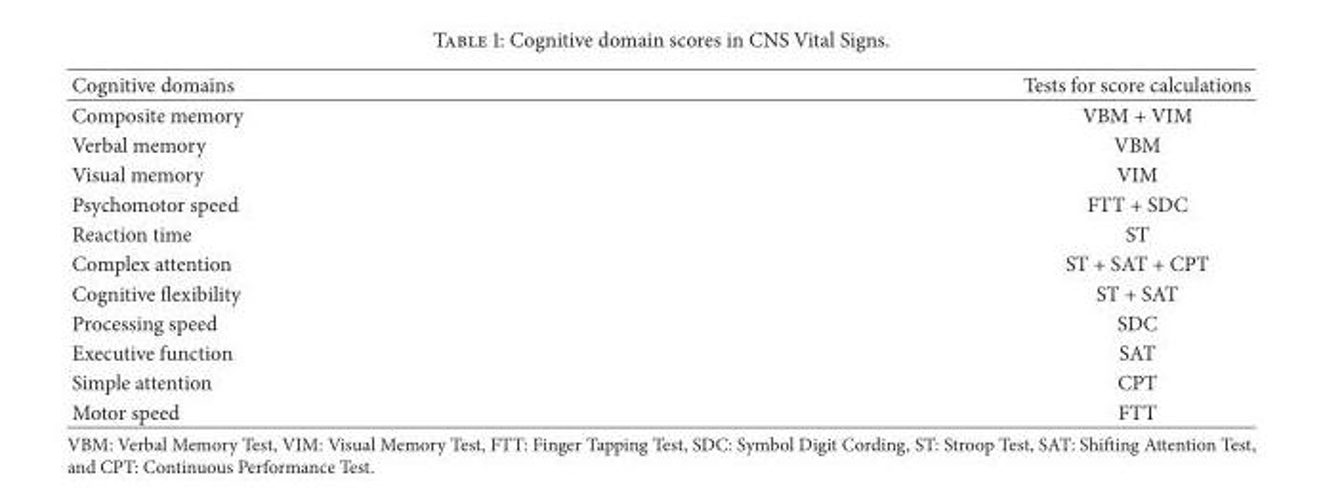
<table><thead><tr><td>Cognitive domains</td><td>Tests for score calculations</td></tr></thead><tbody><tr><td>Composite memory</td><td>VBM + VIM</td></tr><tr><td>Verbal memory</td><td>VBM</td></tr><tr><td>Visual memory</td><td>VIM</td></tr><tr><td>Psychomotor speed</td><td>FTT + SDC</td></tr><tr><td>Reaction time</td><td>ST</td></tr><tr><td>Complex attention</td><td>ST + SAT + CPT</td></tr><tr><td>Cognitive flexibility</td><td>ST + SAT</td></tr><tr><td>Processing speed</td><td>SDC</td></tr><tr><td>Executive function</td><td>SAT</td></tr><tr><td>Simple attention</td><td>CPT</td></tr><tr><td>Motor speed</td><td>FTT</td></tr></tbody></table>